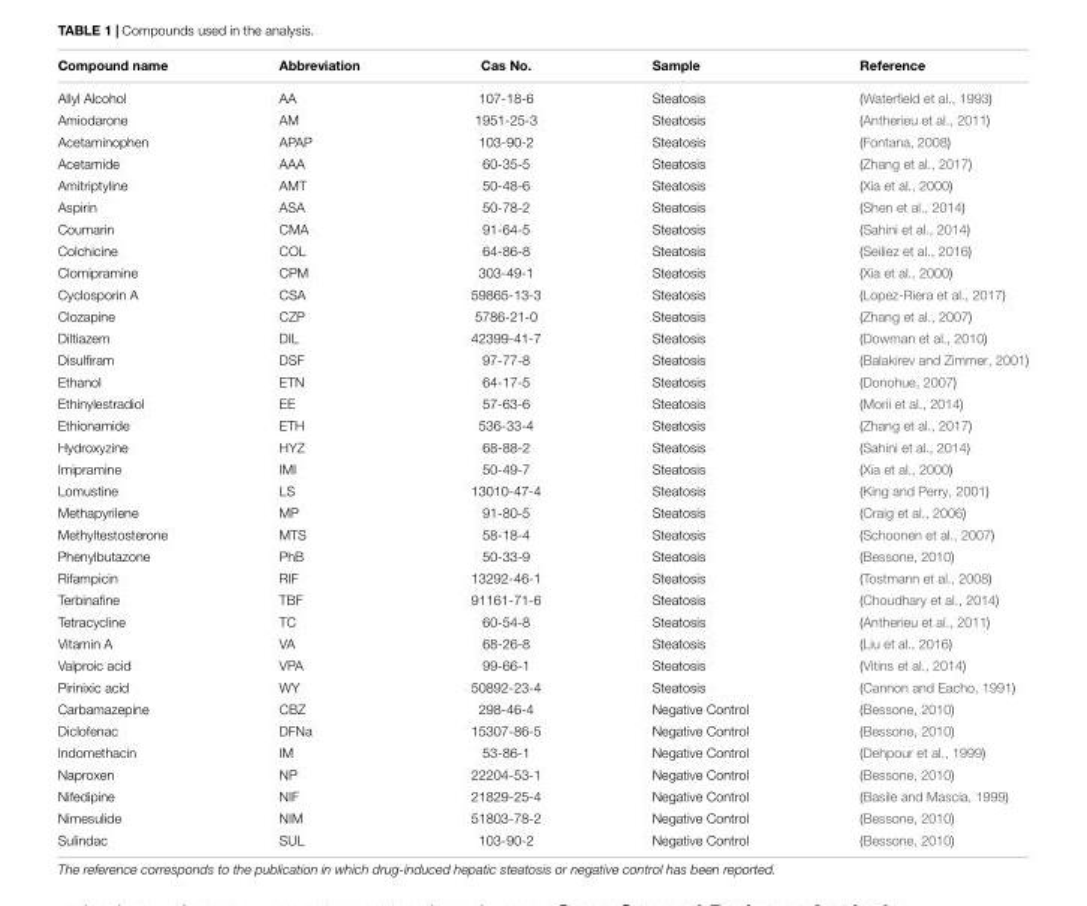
<table><thead><tr><td>Compound name</td><td>Abbreviation</td><td>Cas No.</td><td>Sample</td><td>Reference</td></tr></thead><tbody><tr><td>Allyl Alcohol</td><td>AA</td><td>107-18-6</td><td>Steatosis</td><td>(Waterfield et al., 1993)</td></tr><tr><td>Amiodarone</td><td>AM</td><td>1951-25-3</td><td>Steatosis</td><td>(Antherieu et al., 2011)</td></tr><tr><td>Acetaminophen</td><td>APAP</td><td>103-90-2</td><td>Steatosis</td><td>(Fontana, 2008)</td></tr><tr><td>Acetamide</td><td>AAA</td><td>60-35-5</td><td>Steatosis</td><td>(Zhang et al., 2017)</td></tr><tr><td>Amitriptyline</td><td>AMT</td><td>50-48-6</td><td>Steatosis</td><td>(Xia et al., 2000)</td></tr><tr><td>Aspirin</td><td>ASA</td><td>50-78-2</td><td>Steatosis</td><td>(Shen et al., 2014)</td></tr><tr><td>Coumarin</td><td>CMA</td><td>91-64-5</td><td>Steatosis</td><td>(Sahini et al., 2014)</td></tr><tr><td>Colchicine</td><td>COL</td><td>64-86-8</td><td>Steatosis</td><td>(Seiliez et al., 2016)</td></tr><tr><td>Clomipramine</td><td>CPM</td><td>303-49-1</td><td>Steatosis</td><td>(Xia et al., 2000)</td></tr><tr><td>Cyclosporin A</td><td>CSA</td><td>59865-13-3</td><td>Steatosis</td><td>(Lopez-Riera et al., 2017)</td></tr><tr><td>Clozapine</td><td>CZP</td><td>5786-21-0</td><td>Steatosis</td><td>(Zhang et al., 2007)</td></tr><tr><td>Diltiazem</td><td>DIL</td><td>42399-41-7</td><td>Steatosis</td><td>(Dowman et al., 2010)</td></tr><tr><td>Disulfiram</td><td>DSF</td><td>97-77-8</td><td>Steatosis</td><td>(Balakirev and Zimmer, 2001)</td></tr><tr><td>Ethanol</td><td>ETN</td><td>64-17-5</td><td>Steatosis</td><td>(Donohue, 2007)</td></tr><tr><td>Ethinylestradiol</td><td>EE</td><td>57-63-6</td><td>Steatosis</td><td>(Morii et al., 2014)</td></tr><tr><td>Ethionamide</td><td>ETH</td><td>536-33-4</td><td>Steatosis</td><td>(Zhang et al., 2017)</td></tr><tr><td>Hydroxyzine</td><td>HYZ</td><td>68-88-2</td><td>Steatosis</td><td>(Sahini et al., 2014)</td></tr><tr><td>Imipramine</td><td>IMI</td><td>50-49-7</td><td>Steatosis</td><td>(Xia et al., 2000)</td></tr><tr><td>Lomustine</td><td>LS</td><td>13010-47-4</td><td>Steatosis</td><td>(King and Perry, 2001)</td></tr><tr><td>Methapyrilene</td><td>MP</td><td>91-80-5</td><td>Steatosis</td><td>(Craig et al., 2006)</td></tr><tr><td>Methyltestosterone</td><td>MTS</td><td>58-18-4</td><td>Steatosis</td><td>(Schoonen et al., 2007)</td></tr><tr><td>Phenylbutazone</td><td>PhB</td><td>50-33-9</td><td>Steatosis</td><td>(Bessone, 2010)</td></tr><tr><td>Rifampicin</td><td>RIF</td><td>13292-46-1</td><td>Steatosis</td><td>(Tostmann et al., 2008)</td></tr><tr><td>Terbinafine</td><td>TBF</td><td>91161-71-6</td><td>Steatosis</td><td>(Choudhary et al., 2014)</td></tr><tr><td>Tetracycline</td><td>TC</td><td>60-54-8</td><td>Steatosis</td><td>(Antherieu et al., 2011)</td></tr><tr><td>Vitamin A</td><td>VA</td><td>68-26-8</td><td>Steatosis</td><td>(Liu et al., 2016)</td></tr><tr><td>Valproic acid</td><td>VPA</td><td>99-66-1</td><td>Steatosis</td><td>(Vitins et al., 2014)</td></tr><tr><td>Pirinixic acid</td><td>WY</td><td>50892-23-4</td><td>Steatosis</td><td>(Cannon and Eacho, 1991)</td></tr><tr><td>Carbamazepine</td><td>CBZ</td><td>298-46-4</td><td>Negative Control</td><td>(Bessone, 2010)</td></tr><tr><td>Diclofenac</td><td>DFNa</td><td>15307-86-5</td><td>Negative Control</td><td>(Bessone, 2010)</td></tr><tr><td>Indomethacin</td><td>IM</td><td>53-86-1</td><td>Negative Control</td><td>(Dehpour et al., 1999)</td></tr><tr><td>Naproxen</td><td>NP</td><td>22204-53-1</td><td>Negative Control</td><td>(Bessone, 2010)</td></tr><tr><td>Nifedipine</td><td>NIF</td><td>21829-25-4</td><td>Negative Control</td><td>(Basile and Mascia, 1999)</td></tr><tr><td>Nimesulide</td><td>NIM</td><td>51803-78-2</td><td>Negative Control</td><td>(Bessone, 2010)</td></tr><tr><td>Sulindac</td><td>SUL</td><td>103-90-2</td><td>Negative Control</td><td>(Bessone, 2010)</td></tr></tbody></table>